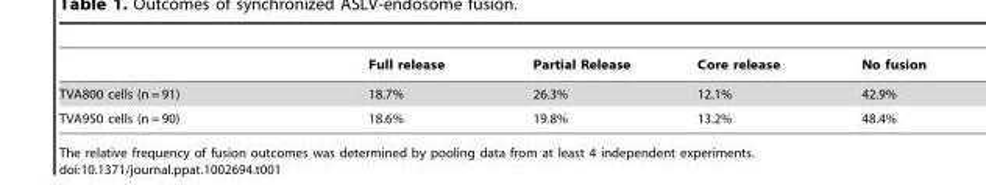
<table><thead><tr><td></td><td>Full release</td><td>Partial Release</td><td>Core release</td><td>No fusion</td></tr></thead><tbody><tr><td>TVA800 cells (n = 91)</td><td>18.7%</td><td>26.3%</td><td>12.1%</td><td>42.9%</td></tr><tr><td>TVA950 cells (n = 90)</td><td>18.6%</td><td>19.8%</td><td>13.2%</td><td>48.4%</td></tr></tbody></table>